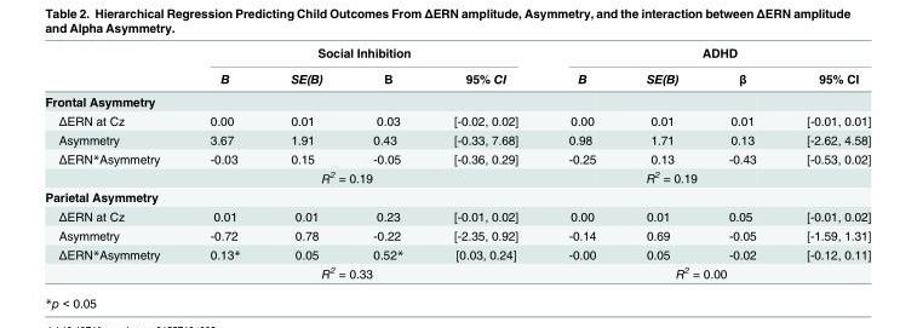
<table><thead><tr><td rowspan="2"></td><td colspan="4">Social Inhibition</td><td colspan="4">ADHD</td></tr><tr><td>B</td><td>SE(B)</td><td>Β</td><td>95% CI</td><td>B</td><td>SE(B)</td><td>β</td><td>95% CI</td></tr></thead><tbody><tr><td colspan="9">Frontal Asymmetry</td></tr><tr><td>ΔERN at Cz</td><td>0.00</td><td>0.01</td><td>0.03</td><td>[-0.02, 0.02]</td><td>0.00</td><td>0.01</td><td>0.01</td><td>[-0.01, 0.01]</td></tr><tr><td>Asymmetry</td><td>3.67</td><td>1.91</td><td>0.43</td><td>[-0.33, 7.68]</td><td>0.98</td><td>1.71</td><td>0.13</td><td>[-2.62, 4.58]</td></tr><tr><td rowspan="2">ΔERN*Asymmetry</td><td>-0.03</td><td>0.15</td><td>-0.05</td><td>[-0.36, 0.29]</td><td>-0.25</td><td>0.13</td><td>-0.43</td><td>[-0.53, 0.02]</td></tr><tr><td></td><td colspan="2">R<sup>2</sup> = 0.19</td><td></td><td></td><td colspan="2">R<sup>2</sup> = 0.19</td><td></td></tr><tr><td colspan="9">Parietal Asymmetry</td></tr><tr><td>ΔERN at Cz</td><td>0.01</td><td>0.01</td><td>0.23</td><td>[-0.01, 0.02]</td><td>0.00</td><td>0.01</td><td>0.05</td><td>[-0.01, 0.02]</td></tr><tr><td>Asymmetry</td><td>-0.72</td><td>0.78</td><td>-0.22</td><td>[-2.35, 0.92]</td><td>-0.14</td><td>0.69</td><td>-0.05</td><td>[-1.59, 1.31]</td></tr><tr><td rowspan="2">ΔERN*Asymmetry</td><td>0.13*</td><td>0.05</td><td>0.52*</td><td>[0.03, 0.24]</td><td>-0.00</td><td>0.05</td><td>-0.02</td><td>[-0.12, 0.11]</td></tr><tr><td></td><td colspan="2">R<sup>2</sup> = 0.33</td><td></td><td></td><td colspan="2">R<sup>2</sup> = 0.00</td><td></td></tr></tbody></table>